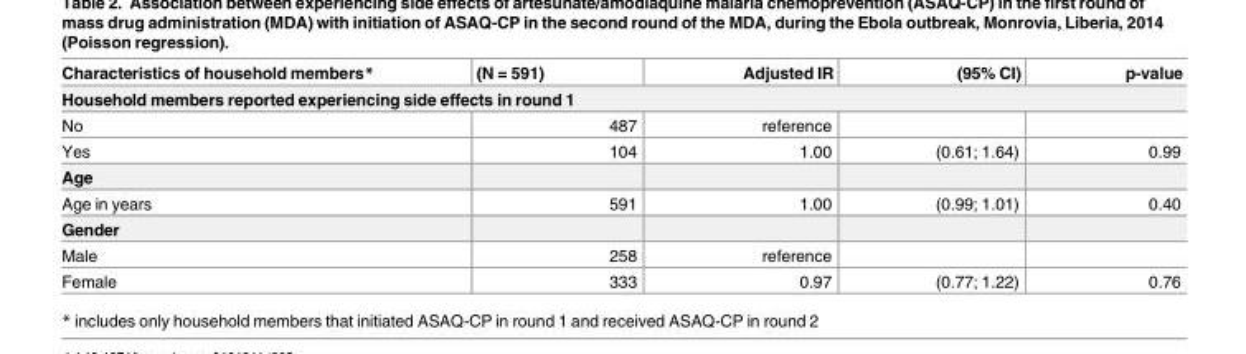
<table><thead><tr><td>Characteristics of household members*</td><td>(N = 591)</td><td>Adjusted IR</td><td>(95% CI)</td><td>p-value</td></tr></thead><tbody><tr><td colspan="5">Household members reported experiencing side effects in round 1</td></tr><tr><td>No</td><td>487</td><td>reference</td><td></td><td></td></tr><tr><td>Yes</td><td>104</td><td>1.00</td><td>(0.61; 1.64)</td><td>0.99</td></tr><tr><td colspan="5">Age</td></tr><tr><td>Age in years</td><td>591</td><td>1.00</td><td>(0.99; 1.01)</td><td>0.40</td></tr><tr><td colspan="5">Gender</td></tr><tr><td>Male</td><td>258</td><td>reference</td><td></td><td></td></tr><tr><td>Female</td><td>333</td><td>0.97</td><td>(0.77; 1.22)</td><td>0.76</td></tr></tbody></table>